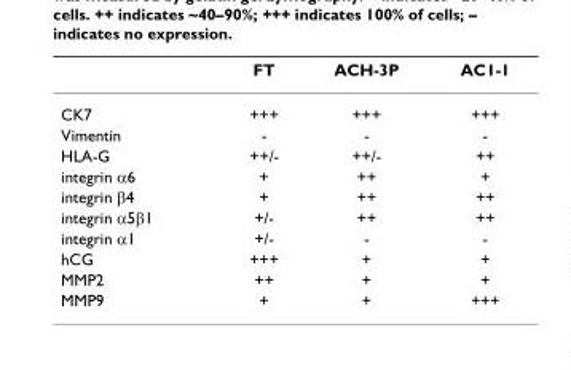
<table><thead><tr><td></td><td>FT</td><td>ACH-3P</td><td>AC1-1</td></tr></thead><tbody><tr><td>CK7</td><td>+++</td><td>+++</td><td>+++</td></tr><tr><td>Vimentin</td><td>-</td><td>-</td><td>-</td></tr><tr><td>HLA-G</td><td>++/-</td><td>++/-</td><td>++</td></tr><tr><td>integrin α6</td><td>+</td><td>++</td><td>+</td></tr><tr><td>integrin β4</td><td>+</td><td>++</td><td>++</td></tr><tr><td>integrin α5β1</td><td>+/-</td><td>++</td><td>++</td></tr><tr><td>integrin α1</td><td>+/-</td><td>-</td><td>-</td></tr><tr><td>hCG</td><td>+++</td><td>+</td><td>+</td></tr><tr><td>MMP2</td><td>++</td><td>+</td><td>+</td></tr><tr><td>MMP9</td><td>+</td><td>+</td><td>+++</td></tr></tbody></table>